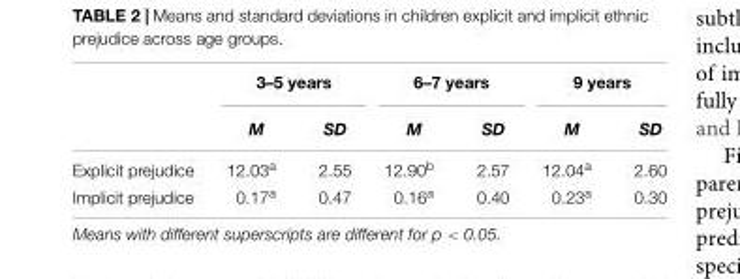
<table><thead><tr><td rowspan="2"></td><td colspan="2">3–5 years</td><td colspan="2">6–7 years</td><td colspan="2">9 years</td></tr><tr><td>M</td><td>SD</td><td>M</td><td>SD</td><td>M</td><td>SD</td></tr></thead><tbody><tr><td>Explicit prejudice</td><td>12.03<sup>a</sup></td><td>2.55</td><td>12.90<sup>b</sup></td><td>2.57</td><td>12.04<sup>a</sup></td><td>2.60</td></tr><tr><td>Implicit prejudice</td><td>0.17<sup>a</sup></td><td>0.47</td><td>0.16<sup>a</sup></td><td>0.40</td><td>0.23<sup>a</sup></td><td>0.30</td></tr></tbody></table>